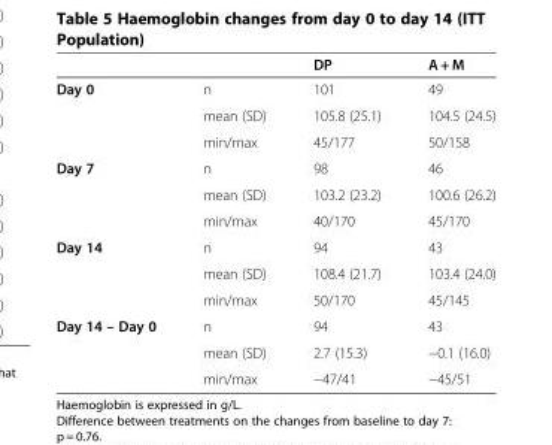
<table><thead><tr><td></td><td></td><td>DP</td><td>A + M</td></tr></thead><tbody><tr><td rowspan="3">Day 0</td><td>n</td><td>101</td><td>49</td></tr><tr><td>mean (SD)</td><td>105.8 (25.1)</td><td>104.5 (24.5)</td></tr><tr><td>min/max</td><td>45/177</td><td>50/158</td></tr><tr><td rowspan="3">Day 7</td><td>n</td><td>98</td><td>46</td></tr><tr><td>mean (SD)</td><td>103.2 (23.2)</td><td>100.6 (26.2)</td></tr><tr><td>min/max</td><td>40/170</td><td>45/170</td></tr><tr><td rowspan="3">Day 14</td><td>n</td><td>94</td><td>43</td></tr><tr><td>mean (SD)</td><td>108.4 (21.7)</td><td>103.4 (24.0)</td></tr><tr><td>min/max</td><td>50/170</td><td>45/145</td></tr><tr><td rowspan="3">Day 14 – Day 0</td><td>n</td><td>94</td><td>43</td></tr><tr><td>mean (SD)</td><td>2.7 (15.3)</td><td>−0.1 (16.0)</td></tr><tr><td>min/max</td><td>−47/41</td><td>−45/51</td></tr></tbody></table>